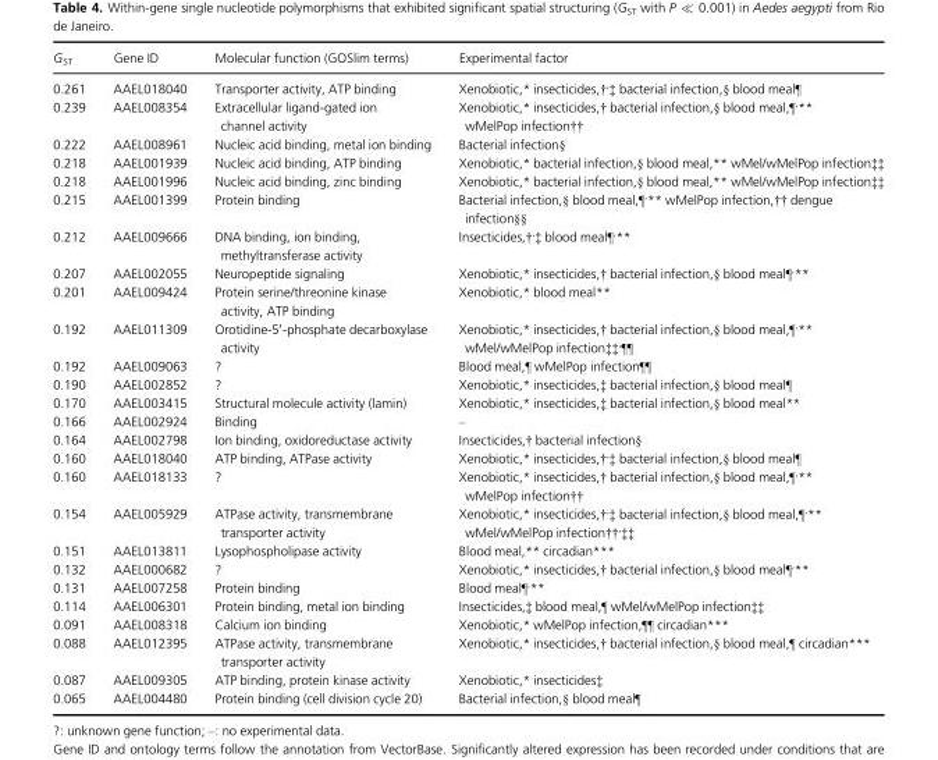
<table><thead><tr><td>G<sub>ST</sub></td><td>Gene ID</td><td>Molecular function (GOSlim terms)</td><td>Experimental factor</td></tr></thead><tbody><tr><td>0.261</td><td>AAEL018040</td><td>Transporter activity, ATP binding</td><td>Xenobiotic,* insecticides,†,‡ bacterial infection,§ blood meal¶</td></tr><tr><td>0.239</td><td>AAEL008354</td><td>Extracellular ligand-gated ion channel activity</td><td>Xenobiotic,* insecticides,† bacterial infection,§ blood meal,¶,** wMelPop infection††</td></tr><tr><td>0.222</td><td>AAEL008961</td><td>Nucleic acid binding, metal ion binding</td><td>Bacterial infection§</td></tr><tr><td>0.218</td><td>AAEL001939</td><td>Nucleic acid binding, ATP binding</td><td>Xenobiotic,* bacterial infection,§ blood meal,** wMel/wMelPop infection‡‡</td></tr><tr><td>0.218</td><td>AAEL001996</td><td>Nucleic acid binding, zinc binding</td><td>Xenobiotic,* bacterial infection,§ blood meal,** wMel/wMelPop infection‡‡</td></tr><tr><td>0.215</td><td>AAEL001399</td><td>Protein binding</td><td>Bacterial infection,§ blood meal,¶,** wMelPop infection,†† dengue infection§§</td></tr><tr><td>0.212</td><td>AAEL009666</td><td>DNA binding, ion binding, methyltransferase activity</td><td>Insecticides,†,‡ blood meal¶,**</td></tr><tr><td>0.207</td><td>AAEL002055</td><td>Neuropeptide signaling</td><td>Xenobiotic,* insecticides,† bacterial infection,§ blood meal¶,**</td></tr><tr><td>0.201</td><td>AAEL009424</td><td>Protein serine/threonine kinase activity, ATP binding</td><td>Xenobiotic,* blood meal**</td></tr><tr><td>0.192</td><td>AAEL011309</td><td>Orotidine-5′-phosphate decarboxylase activity</td><td>Xenobiotic,* insecticides,† bacterial infection,§ blood meal,¶,** wMel/wMelPop infection‡‡,¶¶</td></tr><tr><td>0.192</td><td>AAEL009063</td><td>?</td><td>Blood meal,¶ wMelPop infection¶¶</td></tr><tr><td>0.190</td><td>AAEL002852</td><td>?</td><td>Xenobiotic,* insecticides,‡ bacterial infection,§ blood meal¶</td></tr><tr><td>0.170</td><td>AAEL003415</td><td>Structural molecule activity (lamin)</td><td>Xenobiotic,* insecticides,‡ bacterial infection,§ blood meal**</td></tr><tr><td>0.166</td><td>AAEL002924</td><td>Binding</td><td>–</td></tr><tr><td>0.164</td><td>AAEL002798</td><td>Ion binding, oxidoreductase activity</td><td>Insecticides,† bacterial infection§</td></tr><tr><td>0.160</td><td>AAEL018040</td><td>ATP binding, ATPase activity</td><td>Xenobiotic,* insecticides,†,‡ bacterial infection,§ blood meal¶</td></tr><tr><td>0.160</td><td>AAEL018133</td><td>?</td><td>Xenobiotic,* insecticides,† bacterial infection,§ blood meal,¶,** wMelPop infection††</td></tr><tr><td>0.154</td><td>AAEL005929</td><td>ATPase activity, transmembrane transporter activity</td><td>Xenobiotic,* insecticides,†,‡ bacterial infection,§ blood meal,¶,** wMel/wMelPop infection††,‡‡</td></tr><tr><td>0.151</td><td>AAEL013811</td><td>Lysophospholipase activity</td><td>Blood meal,** circadian***</td></tr><tr><td>0.132</td><td>AAEL000682</td><td>?</td><td>Xenobiotic,* insecticides,† bacterial infection,§ blood meal¶,**</td></tr><tr><td>0.131</td><td>AAEL007258</td><td>Protein binding</td><td>Blood meal¶,**</td></tr><tr><td>0.114</td><td>AAEL006301</td><td>Protein binding, metal ion binding</td><td>Insecticides,‡ blood meal,¶ wMel/wMelPop infection‡‡</td></tr><tr><td>0.091</td><td>AAEL008318</td><td>Calcium ion binding</td><td>Xenobiotic,* wMelPop infection,¶¶ circadian***</td></tr><tr><td>0.088</td><td>AAEL012395</td><td>ATPase activity, transmembrane transporter activity</td><td>Xenobiotic,* insecticides,† bacterial infection,§ blood meal,¶ circadian***</td></tr><tr><td>0.087</td><td>AAEL009305</td><td>ATP binding, protein kinase activity</td><td>Xenobiotic,* insecticides‡</td></tr><tr><td>0.065</td><td>AAEL004480</td><td>Protein binding (cell division cycle 20)</td><td>Bacterial infection,§ blood meal¶</td></tr></tbody></table>